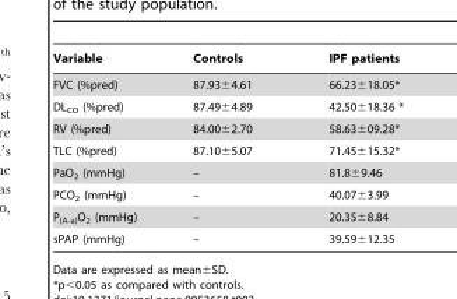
<table><thead><tr><td>Variable</td><td>Controls</td><td>IPF patients</td></tr></thead><tbody><tr><td>FVC (%pred)</td><td>87.93±4.61</td><td>66.23±18.05*</td></tr><tr><td>DL<sub>CO</sub> (%pred)</td><td>87.49±4.89</td><td>42.50±18.36 *</td></tr><tr><td>RV (%pred)</td><td>84.00±2.70</td><td>58.63±09.28*</td></tr><tr><td>TLC (%pred)</td><td>87.10±5.07</td><td>71.45±15.32*</td></tr><tr><td>PaO<sub>2</sub> (mmHg)</td><td>–</td><td>81.8±9.46</td></tr><tr><td>PCO<sub>2</sub> (mmHg)</td><td>–</td><td>40.07±3.99</td></tr><tr><td>P<sub>(A-a)</sub>O<sub>2</sub> (mmHg)</td><td>–</td><td>20.35±8.84</td></tr><tr><td>sPAP (mmHg)</td><td>–</td><td>39.59±12.35</td></tr></tbody></table>